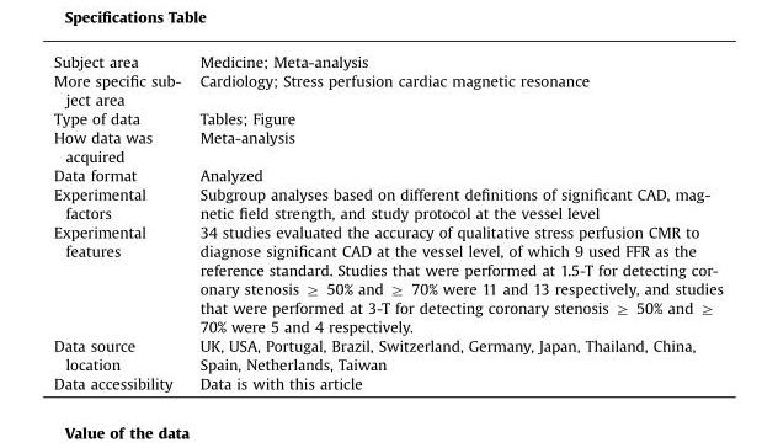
<table><tbody><tr><td>Subject area</td><td>Medicine; Meta-analysis</td></tr><tr><td>More specific sub- ject area</td><td>Cardiology; Stress perfusion cardiac magnetic resonance</td></tr><tr><td>Type of data</td><td>Tables; Figure</td></tr><tr><td>How data was acquired</td><td>Meta-analysis</td></tr><tr><td>Data format</td><td>Analyzed</td></tr><tr><td>Experimental factors</td><td>Subgroup analyses based on different definitions of significant CAD, mag- netic field strength, and study protocol at the vessel level</td></tr><tr><td>Experimental features</td><td>34 studies evaluated the accuracy of qualitative stress perfusion CMR to diagnose significant CAD at the vessel level, of which 9 used FFR as the reference standard. Studies that were performed at 1.5-T for detecting cor- onary stenosis Z 50% and Z 70% were 11 and 13 respectively, and studies that were performed at 3-T for detecting coronary stenosis Z 50% and Z 70% were 5 and 4 respectively.</td></tr><tr><td>Data source location</td><td>UK, USA, Portugal, Brazil, Switzerland, Germany, Japan, Thailand, China, Spain, Netherlands, Taiwan</td></tr><tr><td>Data accessibility</td><td>Data is with this article</td></tr></tbody></table>